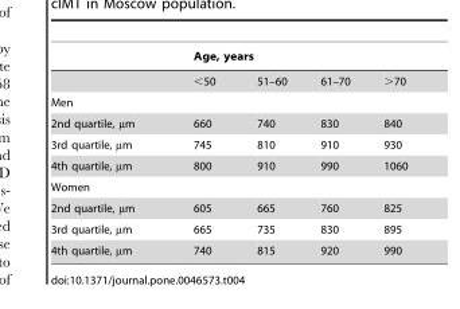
<table><thead><tr><td rowspan="2"></td><td colspan="4">Age, years</td></tr><tr><td>&lt;50</td><td>51–60</td><td>61–70</td><td>&gt;70</td></tr></thead><tbody><tr><td colspan="5">Men</td></tr><tr><td>2nd quartile, µm</td><td>660</td><td>740</td><td>830</td><td>840</td></tr><tr><td>3rd quartile, µm</td><td>745</td><td>810</td><td>910</td><td>930</td></tr><tr><td>4th quartile, µm</td><td>800</td><td>910</td><td>990</td><td>1060</td></tr><tr><td colspan="5">Women</td></tr><tr><td>2nd quartile, µm</td><td>605</td><td>665</td><td>760</td><td>825</td></tr><tr><td>3rd quartile, µm</td><td>665</td><td>735</td><td>830</td><td>895</td></tr><tr><td>4th quartile, µm</td><td>740</td><td>815</td><td>920</td><td>990</td></tr></tbody></table>